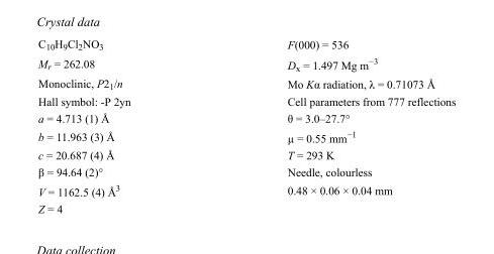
<table><tbody><tr><td>C<sub>10</sub>H<sub>9</sub>Cl<sub>2</sub>NO<sub>3</sub></td><td>F(000) = 536</td></tr><tr><td>M<sub>r</sub> = 262.08</td><td>D<sub>x</sub> = 1.497 Mg m<sup>−3</sup></td></tr><tr><td>Monoclinic, P2<sub>1</sub>/n</td><td>Mo Kα radiation, λ = 0.71073 Å</td></tr><tr><td>Hall symbol: -P 2yn</td><td>Cell parameters from 777 reflections</td></tr><tr><td>a = 4.713 (1) Å</td><td>θ = 3.0–27.7°</td></tr><tr><td>b = 11.963 (3) Å</td><td>µ = 0.55 mm<sup>−1</sup></td></tr><tr><td>c = 20.687 (4) Å</td><td>T = 293 K</td></tr><tr><td>β = 94.64 (2)°</td><td>Needle, colourless</td></tr><tr><td>V = 1162.5 (4) Å<sup>3</sup></td><td>0.48 × 0.06 × 0.04 mm</td></tr><tr><td>Z = 4</td><td></td></tr></tbody></table>